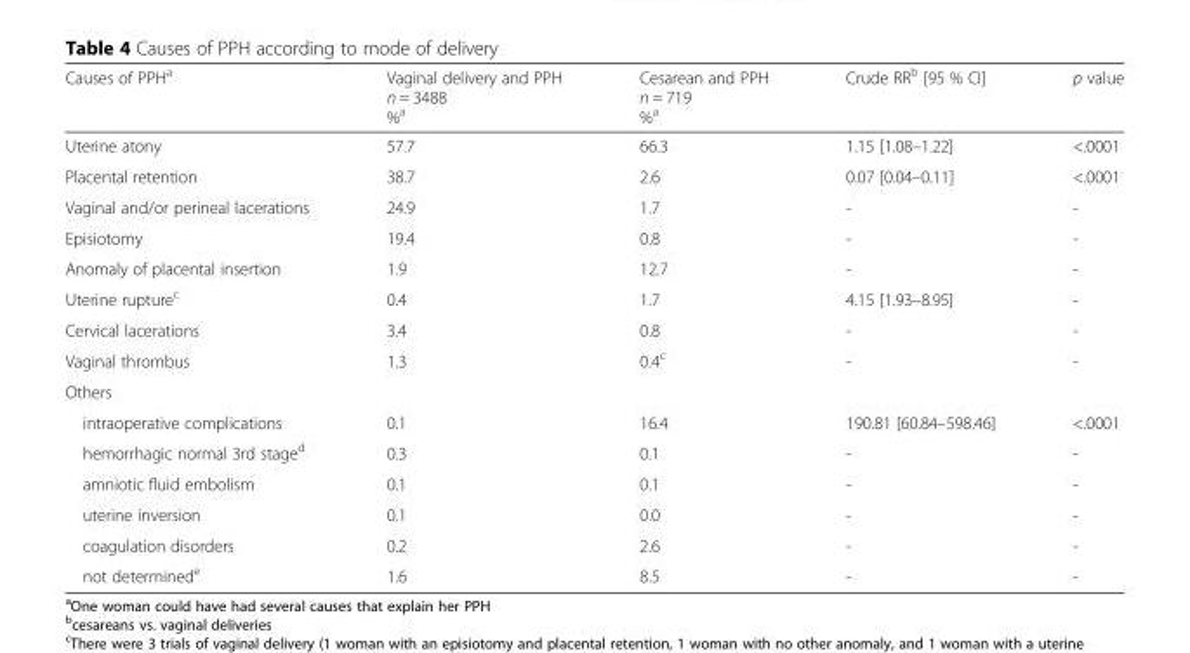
<table><thead><tr><td>Causes of PPH<sup>a</sup></td><td>Vaginal delivery and PPH n = 3488 %<sup>a</sup></td><td>Cesarean and PPH n = 719 %<sup>a</sup></td><td>Crude RR<sup>b</sup> [95 % CI]</td><td>p value</td></tr></thead><tbody><tr><td>Uterine atony</td><td>57.7</td><td>66.3</td><td>1.15 [1.08–1.22]</td><td>&lt;.0001</td></tr><tr><td>Placental retention</td><td>38.7</td><td>2.6</td><td>0.07 [0.04–0.11]</td><td>&lt;.0001</td></tr><tr><td>Vaginal and/or perineal lacerations</td><td>24.9</td><td>1.7</td><td>-</td><td>-</td></tr><tr><td>Episiotomy</td><td>19.4</td><td>0.8</td><td>-</td><td>-</td></tr><tr><td>Anomaly of placental insertion</td><td>1.9</td><td>12.7</td><td>-</td><td>-</td></tr><tr><td>Uterine rupture<sup>c</sup></td><td>0.4</td><td>1.7</td><td>4.15 [1.93–8.95]</td><td>-</td></tr><tr><td>Cervical lacerations</td><td>3.4</td><td>0.8</td><td>-</td><td>-</td></tr><tr><td>Vaginal thrombus</td><td>1.3</td><td>0.4<sup>c</sup></td><td>-</td><td>-</td></tr><tr><td colspan="5">Others</td></tr><tr><td>intraoperative complications</td><td>0.1</td><td>16.4</td><td>190.81 [60.84–598.46]</td><td>&lt;.0001</td></tr><tr><td>hemorrhagic normal 3rd stage<sup>d</sup></td><td>0.3</td><td>0.1</td><td>-</td><td>-</td></tr><tr><td>amniotic fluid embolism</td><td>0.1</td><td>0.1</td><td>-</td><td>-</td></tr><tr><td>uterine inversion</td><td>0.1</td><td>0.0</td><td>-</td><td>-</td></tr><tr><td>coagulation disorders</td><td>0.2</td><td>2.6</td><td>-</td><td>-</td></tr><tr><td>not determined<sup>e</sup></td><td>1.6</td><td>8.5</td><td>-</td><td>-</td></tr></tbody></table>